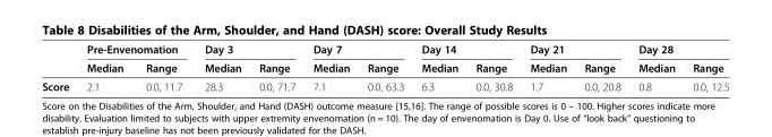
<table><thead><tr><td rowspan="2"></td><td colspan="2">Pre-Envenomation</td><td colspan="2">Day 3</td><td colspan="2">Day 7</td><td colspan="2">Day 14</td><td colspan="2">Day 21</td><td colspan="2">Day 28</td></tr><tr><td>Median</td><td>Range</td><td>Median</td><td>Range</td><td>Median</td><td>Range</td><td>Median</td><td>Range</td><td>Median</td><td>Range</td><td>Median</td><td>Range</td></tr></thead><tbody><tr><td>Score</td><td>2.1</td><td>0.0, 11.7</td><td>28.3</td><td>0.0, 71.7</td><td>7.1</td><td>0.0, 63.3</td><td>6.3</td><td>0.0, 30.8</td><td>1.7</td><td>0.0, 20.8</td><td>0.8</td><td>0.0, 12.5</td></tr></tbody></table>